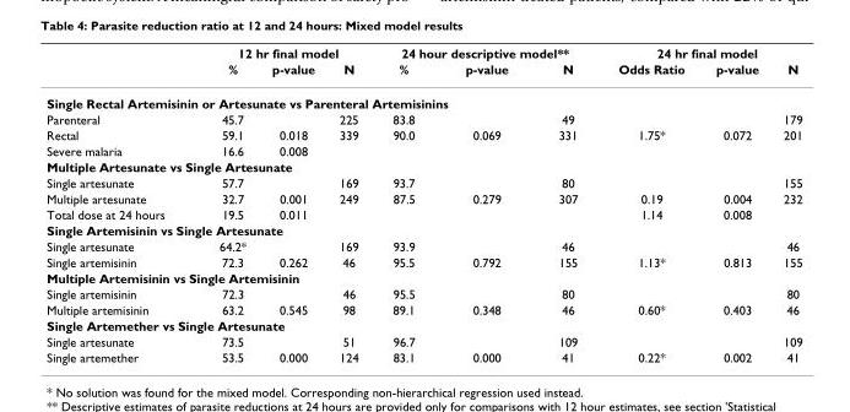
<table><thead><tr><td rowspan="2"></td><td colspan="3">12 hr final model</td><td colspan="3">24 hour descriptive model**</td><td colspan="3">24 hr final model</td></tr><tr><td>%</td><td>p-value</td><td>N</td><td>%</td><td>p-value</td><td>N</td><td>Odds Ratio</td><td>p-value</td><td>N</td></tr></thead><tbody><tr><td colspan="10">Single Rectal Artemisinin or Artesunate vs Parenteral Artemisinins</td></tr><tr><td>Parenteral</td><td>45.7</td><td></td><td>225</td><td>83.8</td><td></td><td>49</td><td></td><td></td><td>179</td></tr><tr><td>Rectal</td><td>59.1</td><td>0.018</td><td>339</td><td>90.0</td><td>0.069</td><td>331</td><td>1.75*</td><td>0.072</td><td>201</td></tr><tr><td>Severe malaria</td><td>16.6</td><td>0.008</td><td></td><td></td><td></td><td></td><td></td><td></td><td></td></tr><tr><td colspan="10">Multiple Artesunate vs Single Artesunate</td></tr><tr><td>Single artesunate</td><td>57.7</td><td></td><td>169</td><td>93.7</td><td></td><td>80</td><td></td><td></td><td>155</td></tr><tr><td>Multiple artesunate</td><td>32.7</td><td>0.001</td><td>249</td><td>87.5</td><td>0.279</td><td>307</td><td>0.19</td><td>0.004</td><td>232</td></tr><tr><td>Total dose at 24 hours</td><td>19.5</td><td>0.011</td><td></td><td></td><td></td><td></td><td>1.14</td><td>0.008</td><td></td></tr><tr><td colspan="10">Single Artemisinin vs Single Artesunate</td></tr><tr><td>Single artesunate</td><td>64.2*</td><td></td><td>169</td><td>93.9</td><td></td><td>46</td><td></td><td></td><td>46</td></tr><tr><td>Single artemisinin</td><td>72.3</td><td>0.262</td><td>46</td><td>95.5</td><td>0.792</td><td>155</td><td>1.13*</td><td>0.813</td><td>155</td></tr><tr><td colspan="10">Multiple Artemisinin vs Single Artemisinin</td></tr><tr><td>Single artemisinin</td><td>72.3</td><td></td><td>46</td><td>95.5</td><td></td><td>80</td><td></td><td></td><td>80</td></tr><tr><td>Multiple artemisinin</td><td>63.2</td><td>0.545</td><td>98</td><td>89.1</td><td>0.348</td><td>46</td><td>0.60*</td><td>0.403</td><td>46</td></tr><tr><td colspan="10">Single Artemether vs Single Artesunate</td></tr><tr><td>Single artesunate</td><td>73.5</td><td></td><td>51</td><td>96.7</td><td></td><td>109</td><td></td><td></td><td>109</td></tr><tr><td>Single artemether</td><td>53.5</td><td>0.000</td><td>124</td><td>83.1</td><td>0.000</td><td>41</td><td>0.22*</td><td>0.002</td><td>41</td></tr></tbody></table>